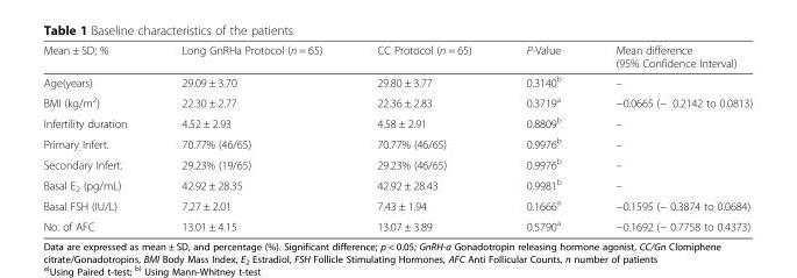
<table><thead><tr><td>Mean ± SD; %</td><td>Long GnRHa Protocol (n = 65)</td><td>CC Protocol (n = 65)</td><td>P-Value</td><td>Mean difference (95% Confidence Interval)</td></tr></thead><tbody><tr><td>Age(years)</td><td>29.09 ± 3.70</td><td>29.80 ± 3.77</td><td>0.3140<sup>b</sup></td><td>–</td></tr><tr><td>BMI (kg/m<sup>2</sup>)</td><td>22.30 ± 2.77</td><td>22.36 ± 2.83</td><td>0.3719<sup>a</sup></td><td>−0.0665 (− 0.2142 to 0.0813)</td></tr><tr><td>Infertility duration</td><td>4.52 ± 2.93</td><td>4.58 ± 2.91</td><td>0.8809<sup>b</sup></td><td>–</td></tr><tr><td>Primary Infert.</td><td>70.77% (46/65)</td><td>70.77% (46/65)</td><td>0.9976<sup>b</sup></td><td>–</td></tr><tr><td>Secondary Infert.</td><td>29.23% (19/65)</td><td>29.23% (46/65)</td><td>0.9976<sup>b</sup></td><td>–</td></tr><tr><td>Basal E<sub>2</sub> (pg/mL)</td><td>42.92 ± 28.35</td><td>42.92 ± 28.43</td><td>0.9981<sup>b</sup></td><td>–</td></tr><tr><td>Basal FSH (IU/L)</td><td>7.27 ± 2.01</td><td>7.43 ± 1.94</td><td>0.1666<sup>a</sup></td><td>−0.1595 (− 0.3874 to 0.0684)</td></tr><tr><td>No. of AFC</td><td>13.01 ± 4.15</td><td>13.07 ± 3.89</td><td>0.5790<sup>a</sup></td><td>−0.1692 (− 0.7758 to 0.4373)</td></tr></tbody></table>